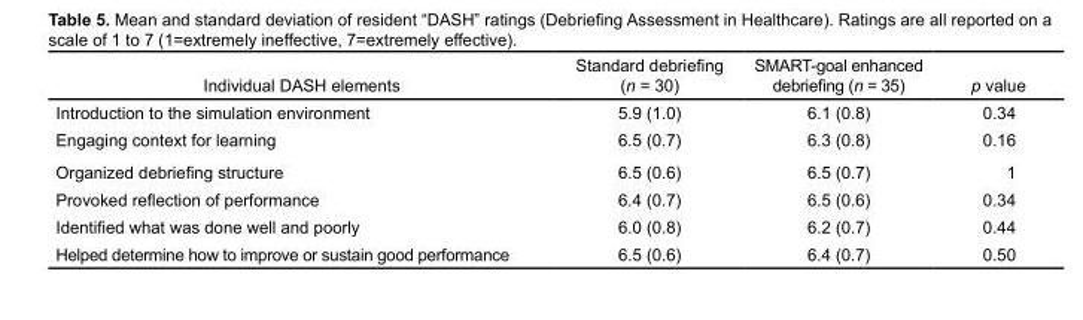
<table><thead><tr><td>Individual DASH elements</td><td>Standard debriefing (n = 30)</td><td>SMART-goal enhanced debriefing (n = 35)</td><td>p value</td></tr></thead><tbody><tr><td>Introduction to the simulation environment</td><td>5.9 (1.0)</td><td>6.1 (0.8)</td><td>0.34</td></tr><tr><td>Engaging context for learning</td><td>6.5 (0.7)</td><td>6.3 (0.8)</td><td>0.16</td></tr><tr><td>Organized debriefing structure</td><td>6.5 (0.6)</td><td>6.5 (0.7)</td><td>1</td></tr><tr><td>Provoked reflection of performance</td><td>6.4 (0.7)</td><td>6.5 (0.6)</td><td>0.34</td></tr><tr><td>Identified what was done well and poorly</td><td>6.0 (0.8)</td><td>6.2 (0.7)</td><td>0.44</td></tr><tr><td>Helped determine how to improve or sustain good performance</td><td>6.5 (0.6)</td><td>6.4 (0.7)</td><td>0.50</td></tr></tbody></table>